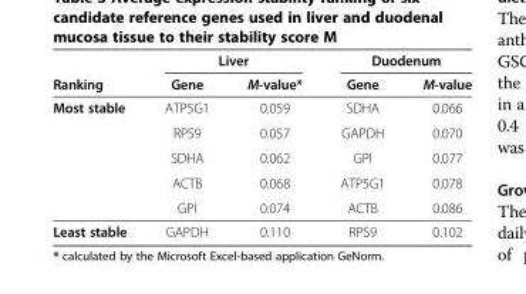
<table><thead><tr><td rowspan="2">Ranking</td><td colspan="2">Liver</td><td colspan="2">Duodenum</td></tr><tr><td>Gene</td><td>M-value*</td><td>Gene</td><td>M-value</td></tr></thead><tbody><tr><td rowspan="5">Most stable</td><td>ATP5G1</td><td>0.059</td><td>SDHA</td><td>0.066</td></tr><tr><td>RPS9</td><td>0.057</td><td>GAPDH</td><td>0.070</td></tr><tr><td>SDHA</td><td>0.062</td><td>GPI</td><td>0.077</td></tr><tr><td>ACTB</td><td>0.068</td><td>ATP5G1</td><td>0.078</td></tr><tr><td>GPI</td><td>0.074</td><td>ACTB</td><td>0.086</td></tr><tr><td>Least stable</td><td>GAPDH</td><td>0.110</td><td>RPS9</td><td>0.102</td></tr></tbody></table>